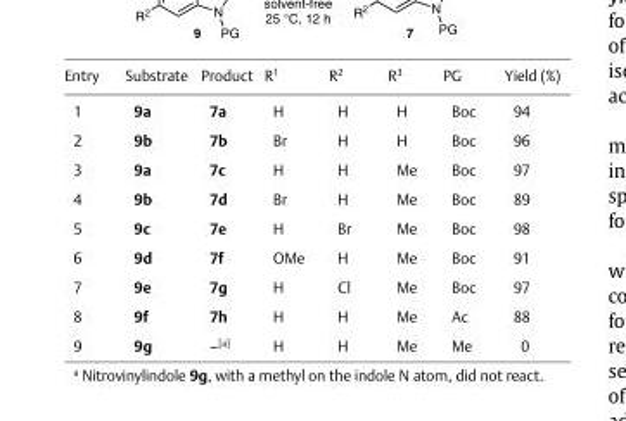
<table><thead><tr><td>Entry</td><td>Substrate</td><td>Product</td><td>R<sup>1</sup></td><td>R<sup>2</sup></td><td>R<sup>3</sup></td><td>PG</td><td>Yield (%)</td></tr></thead><tbody><tr><td>1</td><td>9a</td><td>7a</td><td>H</td><td>H</td><td>H</td><td>Boc</td><td>94</td></tr><tr><td>2</td><td>9b</td><td>7b</td><td>Br</td><td>H</td><td>H</td><td>Boc</td><td>96</td></tr><tr><td>3</td><td>9a</td><td>7c</td><td>H</td><td>H</td><td>Me</td><td>Boc</td><td>97</td></tr><tr><td>4</td><td>9b</td><td>7d</td><td>Br</td><td>H</td><td>Me</td><td>Boc</td><td>89</td></tr><tr><td>5</td><td>9c</td><td>7e</td><td>H</td><td>Br</td><td>Me</td><td>Boc</td><td>98</td></tr><tr><td>6</td><td>9d</td><td>7f</td><td>OMe</td><td>H</td><td>Me</td><td>Boc</td><td>91</td></tr><tr><td>7</td><td>9e</td><td>7g</td><td>H</td><td>Cl</td><td>Me</td><td>Boc</td><td>97</td></tr><tr><td>8</td><td>9f</td><td>7h</td><td>H</td><td>H</td><td>Me</td><td>Ac</td><td>88</td></tr><tr><td>9</td><td>9g</td><td>–<sup>[a]</sup></td><td>H</td><td>H</td><td>Me</td><td>Me</td><td>0</td></tr></tbody></table>